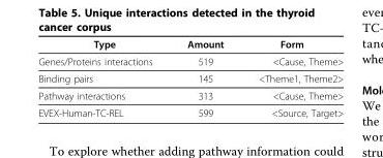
<table><thead><tr><td>Type</td><td>Amount</td><td>Form</td></tr></thead><tbody><tr><td>Genes/Proteins interactions</td><td>519</td><td>&lt;Cause, Theme&gt;</td></tr><tr><td>Binding pairs</td><td>145</td><td>&lt;Theme1, Theme2&gt;</td></tr><tr><td>Pathway interactions</td><td>313</td><td>&lt;Cause, Theme&gt;</td></tr><tr><td>EVEX-Human-TC-REL</td><td>599</td><td>&lt;Source, Target&gt;</td></tr></tbody></table>